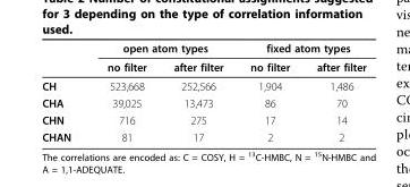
<table><thead><tr><td rowspan="2"></td><td colspan="2">open atom types</td><td colspan="2">fixed atom types</td></tr><tr><td>no filter</td><td>after filter</td><td>no filter</td><td>after filter</td></tr></thead><tbody><tr><td>CH</td><td>523,668</td><td>252,566</td><td>1,904</td><td>1,486</td></tr><tr><td>CHA</td><td>39,025</td><td>13,473</td><td>86</td><td>70</td></tr><tr><td>CHN</td><td>716</td><td>275</td><td>17</td><td>14</td></tr><tr><td>CHAN</td><td>81</td><td>17</td><td>2</td><td>2</td></tr></tbody></table>